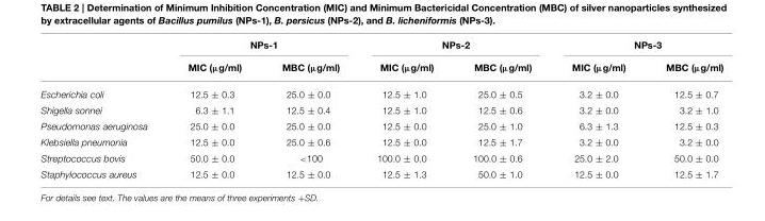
<table><thead><tr><td rowspan="2"></td><td colspan="2">NPs-1</td><td colspan="2">NPs-2</td><td colspan="2">NPs-3</td></tr><tr><td>MIC (µg/ml)</td><td>MBC (µg/ml)</td><td>MIC (µg/ml)</td><td>MBC (µg/ml)</td><td>MIC (µg/ml)</td><td>MBC (µg/ml)</td></tr></thead><tbody><tr><td>Escherichia coli</td><td>12.5 ± 0.3</td><td>25.0 ± 0.0</td><td>12.5 ± 1.0</td><td>25.0 ± 0.5</td><td>3.2 ± 0.0</td><td>12.5 ± 0.7</td></tr><tr><td>Shigella sonnei</td><td>6.3 ± 1.1</td><td>12.5 ± 0.4</td><td>12.5 ± 1.0</td><td>12.5 ± 0.6</td><td>3.2 ± 0.0</td><td>3.2 ± 1.0</td></tr><tr><td>Pseudomonas aeruginosa</td><td>25.0 ± 0.0</td><td>25.0 ± 0.0</td><td>12.5 ± 0.0</td><td>25.0 ± 1.0</td><td>6.3 ± 1.3</td><td>12.5 ± 0.3</td></tr><tr><td>Klebsiella pneumonia</td><td>12.5 ± 0.0</td><td>25.0 ± 0.6</td><td>12.5 ± 0.0</td><td>12.5 ± 1.7</td><td>3.2 ± 0.0</td><td>3.2 ± 0.0</td></tr><tr><td>Streptococcus bovis</td><td>50.0 ± 0.0</td><td>&lt;100</td><td>100.0 ± 0.0</td><td>100.0 ± 0.6</td><td>25.0 ± 2.0</td><td>50.0 ± 0.0</td></tr><tr><td>Staphylococcus aureus</td><td>12.5 ± 0.0</td><td>12.5 ± 0.0</td><td>12.5 ± 1.3</td><td>50.0 ± 1.0</td><td>12.5 ± 0.0</td><td>12.5 ± 1.7</td></tr></tbody></table>